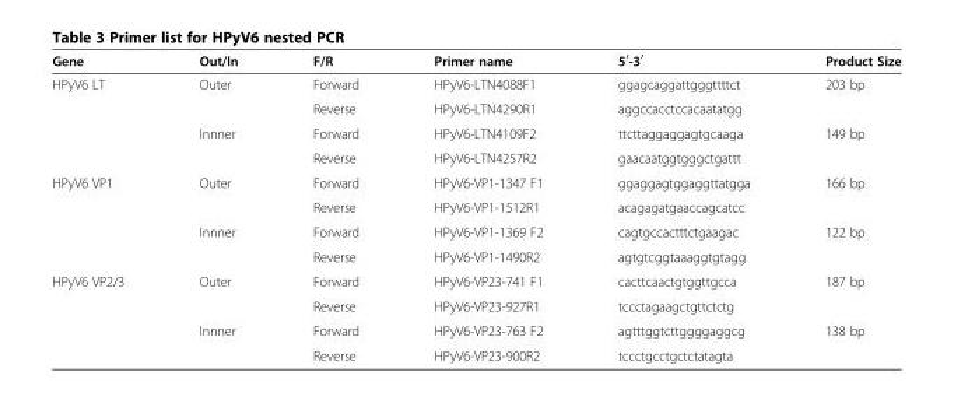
<table><thead><tr><td>Gene</td><td>Out/In</td><td>F/R</td><td>Primer name</td><td>5<sup>′</sup>-3<sup>′</sup></td><td>Product Size</td></tr></thead><tbody><tr><td rowspan="4">HPyV6 LT</td><td>Outer</td><td>Forward</td><td>HPyV6-LTN4088F1</td><td>ggagcaggattgggttttct</td><td>203 bp</td></tr><tr><td></td><td>Reverse</td><td>HPyV6-LTN4290R1</td><td>aggccacctccacaatatgg</td><td></td></tr><tr><td>Innner</td><td>Forward</td><td>HPyV6-LTN4109F2</td><td>ttcttaggaggagtgcaaga</td><td>149 bp</td></tr><tr><td></td><td>Reverse</td><td>HPyV6-LTN4257R2</td><td>gaacaatggtgggctgattt</td><td></td></tr><tr><td rowspan="4">HPyV6 VP1</td><td>Outer</td><td>Forward</td><td>HPyV6-VP1-1347 F1</td><td>ggaggagtggaggttatgga</td><td>166 bp</td></tr><tr><td></td><td>Reverse</td><td>HPyV6-VP1-1512R1</td><td>acagagatgaaccagcatcc</td><td></td></tr><tr><td>Innner</td><td>Forward</td><td>HPyV6-VP1-1369 F2</td><td>cagtgccactttctgaagac</td><td>122 bp</td></tr><tr><td></td><td>Reverse</td><td>HPyV6-VP1-1490R2</td><td>agtgtcggtaaaggtgtagg</td><td></td></tr><tr><td rowspan="4">HPyV6 VP2/3</td><td>Outer</td><td>Forward</td><td>HPyV6-VP23-741 F1</td><td>cacttcaactgtggttgcca</td><td>187 bp</td></tr><tr><td></td><td>Reverse</td><td>HPyV6-VP23-927R1</td><td>tccctagaagctgttctctg</td><td></td></tr><tr><td>Innner</td><td>Forward</td><td>HPyV6-VP23-763 F2</td><td>agtttggtcttggggaggcg</td><td>138 bp</td></tr><tr><td></td><td>Reverse</td><td>HPyV6-VP23-900R2</td><td>tccctgcctgctctatagta</td><td></td></tr></tbody></table>